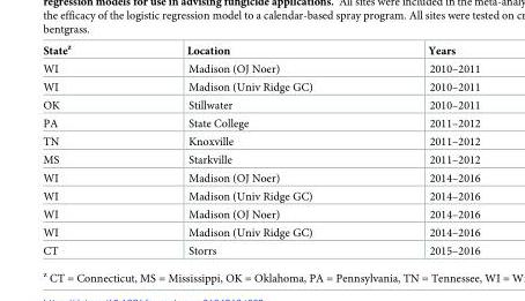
<table><thead><tr><td>State<sup>z</sup></td><td>Location</td><td>Years</td></tr></thead><tbody><tr><td>WI</td><td>Madison (OJ Noer)</td><td>2010–2011</td></tr><tr><td>WI</td><td>Madison (Univ Ridge GC)</td><td>2010–2011</td></tr><tr><td>OK</td><td>Stillwater</td><td>2010–2011</td></tr><tr><td>PA</td><td>State College</td><td>2011–2012</td></tr><tr><td>TN</td><td>Knoxville</td><td>2011–2012</td></tr><tr><td>MS</td><td>Starkville</td><td>2011–2012</td></tr><tr><td>WI</td><td>Madison (OJ Noer)</td><td>2014–2016</td></tr><tr><td>WI</td><td>Madison (Univ Ridge GC)</td><td>2014–2016</td></tr><tr><td>WI</td><td>Madison (OJ Noer)</td><td>2014–2016</td></tr><tr><td>WI</td><td>Madison (Univ Ridge GC)</td><td>2014–2016</td></tr><tr><td>CT</td><td>Storrs</td><td>2015–2016</td></tr></tbody></table>